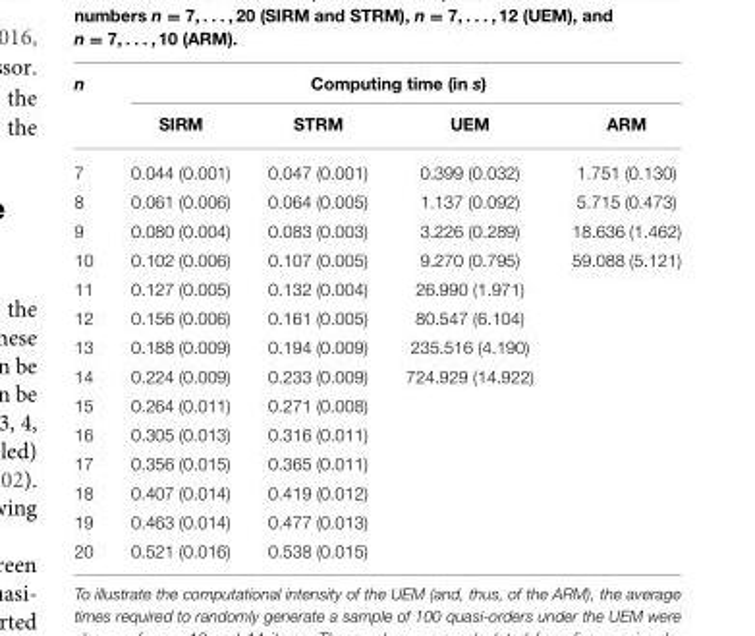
<table><thead><tr><td rowspan="2">n</td><td colspan="4">Computing time (in s)</td></tr><tr><td>SIRM</td><td>STRM</td><td>UEM</td><td>ARM</td></tr></thead><tbody><tr><td>7</td><td>0.044 (0.001)</td><td>0.047 (0.001)</td><td>0.399 (0.032)</td><td>1.751 (0.130)</td></tr><tr><td>8</td><td>0.061 (0.006)</td><td>0.064 (0.005)</td><td>1.137 (0.092)</td><td>5.715 (0.473)</td></tr><tr><td>9</td><td>0.080 (0.004)</td><td>0.083 (0.003)</td><td>3.226 (0.289)</td><td>18.636 (1.462)</td></tr><tr><td>10</td><td>0.102 (0.006)</td><td>0.107 (0.005)</td><td>9.270 (0.795)</td><td>59.088 (5.121)</td></tr><tr><td>11</td><td>0.127 (0.005)</td><td>0.132 (0.004)</td><td>26.990 (1.971)</td><td></td></tr><tr><td>12</td><td>0.156 (0.006)</td><td>0.161 (0.005)</td><td>80.547 (6.104)</td><td></td></tr><tr><td>13</td><td>0.188 (0.009)</td><td>0.194 (0.009)</td><td>235.516 (4.190)</td><td></td></tr><tr><td>14</td><td>0.224 (0.009)</td><td>0.233 (0.009)</td><td>724.929 (14.922)</td><td></td></tr><tr><td>15</td><td>0.264 (0.011)</td><td>0.271 (0.008)</td><td></td><td></td></tr><tr><td>16</td><td>0.305 (0.013)</td><td>0.316 (0.011)</td><td></td><td></td></tr><tr><td>17</td><td>0.356 (0.015)</td><td>0.365 (0.011)</td><td></td><td></td></tr><tr><td>18</td><td>0.407 (0.014)</td><td>0.419 (0.012)</td><td></td><td></td></tr><tr><td>19</td><td>0.463 (0.014)</td><td>0.477 (0.013)</td><td></td><td></td></tr><tr><td>20</td><td>0.521 (0.016)</td><td>0.538 (0.015)</td><td></td><td></td></tr></tbody></table>